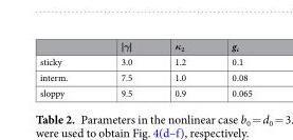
<table><thead><tr><td></td><td>|γ|</td><td>κ<sub>2</sub></td><td>g<sub>c</sub></td></tr></thead><tbody><tr><td>sticky</td><td>3.0</td><td>1.2</td><td>0.1</td></tr><tr><td>interm.</td><td>7.5</td><td>1.0</td><td>0.08</td></tr><tr><td>sloppy</td><td>9.5</td><td>0.9</td><td>0.065</td></tr></tbody></table>